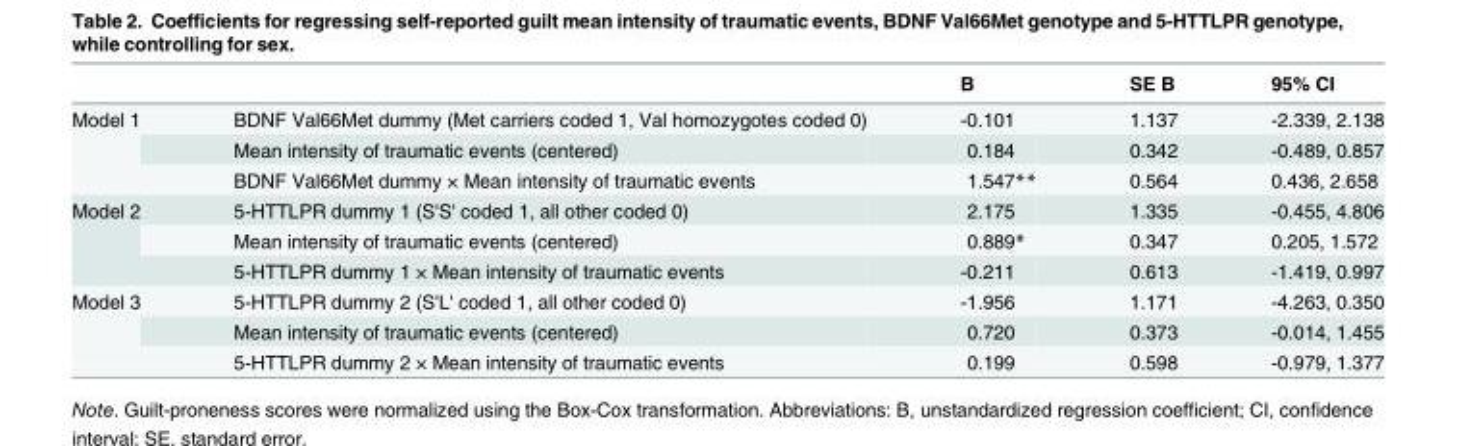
<table><thead><tr><td></td><td></td><td>B</td><td>SE B</td><td>95% CI</td></tr></thead><tbody><tr><td rowspan="3">Model 1</td><td>BDNF Val66Met dummy (Met carriers coded 1, Val homozygotes coded 0)</td><td>-0.101</td><td>1.137</td><td>-2.339, 2.138</td></tr><tr><td>Mean intensity of traumatic events (centered)</td><td>0.184</td><td>0.342</td><td>-0.489, 0.857</td></tr><tr><td>BDNF Val66Met dummy × Mean intensity of traumatic events</td><td>1.547**</td><td>0.564</td><td>0.436, 2.658</td></tr><tr><td rowspan="3">Model 2</td><td>5-HTTLPR dummy 1 (S&#x27;S&#x27; coded 1, all other coded 0)</td><td>2.175</td><td>1.335</td><td>-0.455, 4.806</td></tr><tr><td>Mean intensity of traumatic events (centered)</td><td>0.889*</td><td>0.347</td><td>0.205, 1.572</td></tr><tr><td>5-HTTLPR dummy 1 × Mean intensity of traumatic events</td><td>-0.211</td><td>0.613</td><td>-1.419, 0.997</td></tr><tr><td rowspan="3">Model 3</td><td>5-HTTLPR dummy 2 (S&#x27;L&#x27; coded 1, all other coded 0)</td><td>-1.956</td><td>1.171</td><td>-4.263, 0.350</td></tr><tr><td>Mean intensity of traumatic events (centered)</td><td>0.720</td><td>0.373</td><td>-0.014, 1.455</td></tr><tr><td>5-HTTLPR dummy 2 × Mean intensity of traumatic events</td><td>0.199</td><td>0.598</td><td>-0.979, 1.377</td></tr></tbody></table>